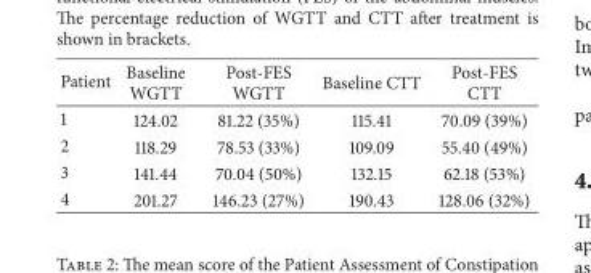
<table><thead><tr><td>Patient</td><td>Baseline WGTT</td><td>Post-FES WGTT</td><td>Baseline CTT</td><td>Post-FES CTT</td></tr></thead><tbody><tr><td>1</td><td>124.02</td><td>81.22 (35%)</td><td>115.41</td><td>70.09 (39%)</td></tr><tr><td>2</td><td>118.29</td><td>78.53 (33%)</td><td>109.09</td><td>55.40 (49%)</td></tr><tr><td>3</td><td>141.44</td><td>70.04 (50%)</td><td>132.15</td><td>62.18 (53%)</td></tr><tr><td>4</td><td>201.27</td><td>146.23 (27%)</td><td>190.43</td><td>128.06 (32%)</td></tr></tbody></table>